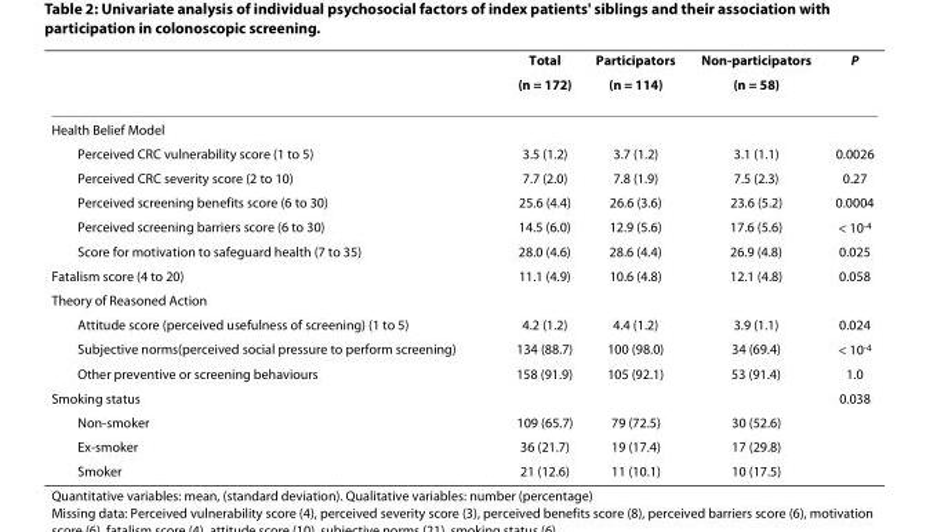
<table><thead><tr><td rowspan="2"></td><td rowspan="2">Total (n = 172)</td><td rowspan="2">Participators (n = 114)</td><td rowspan="2">Non-participators (n = 58)</td><td rowspan="2">P</td></tr><tr></tr></thead><tbody><tr><td colspan="5">Health Belief Model</td></tr><tr><td>Perceived CRC vulnerability score (1 to 5)</td><td>3.5 (1.2)</td><td>3.7 (1.2)</td><td>3.1 (1.1)</td><td>0.0026</td></tr><tr><td>Perceived CRC severity score (2 to 10)</td><td>7.7 (2.0)</td><td>7.8 (1.9)</td><td>7.5 (2.3)</td><td>0.27</td></tr><tr><td>Perceived screening benefits score (6 to 30)</td><td>25.6 (4.4)</td><td>26.6 (3.6)</td><td>23.6 (5.2)</td><td>0.0004</td></tr><tr><td>Perceived screening barriers score (6 to 30)</td><td>14.5 (6.0)</td><td>12.9 (5.6)</td><td>17.6 (5.6)</td><td>&lt; 10<sup>-4</sup></td></tr><tr><td>Score for motivation to safeguard health (7 to 35)</td><td>28.0 (4.6)</td><td>28.6 (4.4)</td><td>26.9 (4.8)</td><td>0.025</td></tr><tr><td>Fatalism score (4 to 20)</td><td>11.1 (4.9)</td><td>10.6 (4.8)</td><td>12.1 (4.8)</td><td>0.058</td></tr><tr><td colspan="5">Theory of Reasoned Action</td></tr><tr><td>Attitude score (perceived usefulness of screening) (1 to 5)</td><td>4.2 (1.2)</td><td>4.4 (1.2)</td><td>3.9 (1.1)</td><td>0.024</td></tr><tr><td>Subjective norms(perceived social pressure to perform screening)</td><td>134 (88.7)</td><td>100 (98.0)</td><td>34 (69.4)</td><td>&lt; 10<sup>-4</sup></td></tr><tr><td>Other preventive or screening behaviours</td><td>158 (91.9)</td><td>105 (92.1)</td><td>53 (91.4)</td><td>1.0</td></tr><tr><td>Smoking status</td><td></td><td></td><td></td><td>0.038</td></tr><tr><td>Non-smoker</td><td>109 (65.7)</td><td>79 (72.5)</td><td>30 (52.6)</td><td></td></tr><tr><td>Ex-smoker</td><td>36 (21.7)</td><td>19 (17.4)</td><td>17 (29.8)</td><td></td></tr><tr><td>Smoker</td><td>21 (12.6)</td><td>11 (10.1)</td><td>10 (17.5)</td><td></td></tr></tbody></table>